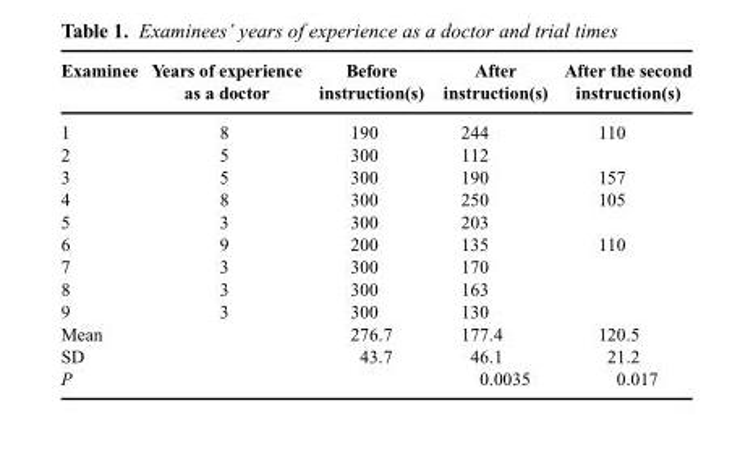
<table><thead><tr><td>Examinee</td><td>Years of experience as a doctor</td><td>Before instruction(s)</td><td>After instruction(s)</td><td>After the second instruction(s)</td></tr></thead><tbody><tr><td>1</td><td>8</td><td>190</td><td>244</td><td>110</td></tr><tr><td>2</td><td>5</td><td>300</td><td>112</td><td></td></tr><tr><td>3</td><td>5</td><td>300</td><td>190</td><td>157</td></tr><tr><td>4</td><td>8</td><td>300</td><td>250</td><td>105</td></tr><tr><td>5</td><td>3</td><td>300</td><td>203</td><td></td></tr><tr><td>6</td><td>9</td><td>200</td><td>135</td><td>110</td></tr><tr><td>7</td><td>3</td><td>300</td><td>170</td><td></td></tr><tr><td>8</td><td>3</td><td>300</td><td>163</td><td></td></tr><tr><td>9</td><td>3</td><td>300</td><td>130</td><td></td></tr><tr><td>Mean</td><td></td><td>276.7</td><td>177.4</td><td>120.5</td></tr><tr><td colspan="2">SD</td><td>43.7</td><td>46.1</td><td>21.2</td></tr><tr><td>P</td><td></td><td></td><td>0.0035</td><td>0.017</td></tr></tbody></table>